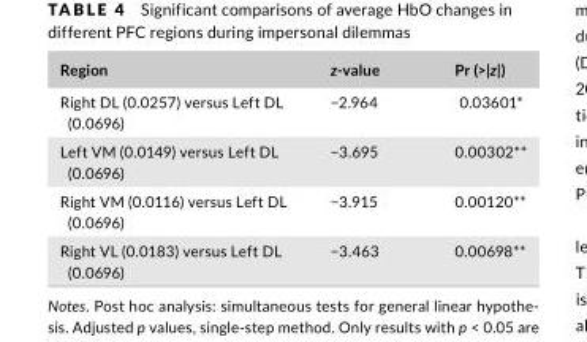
<table><thead><tr><td>Region</td><td>z‐value</td><td>Pr (&gt;|z|)</td></tr></thead><tbody><tr><td>Right DL (0.0257) versus Left DL (0.0696)</td><td>−2.964</td><td>0.03601*</td></tr><tr><td>Left VM (0.0149) versus Left DL (0.0696)</td><td>−3.695</td><td>0.00302**</td></tr><tr><td>Right VM (0.0116) versus Left DL (0.0696)</td><td>−3.915</td><td>0.00120**</td></tr><tr><td>Right VL (0.0183) versus Left DL (0.0696)</td><td>−3.463</td><td>0.00698**</td></tr></tbody></table>